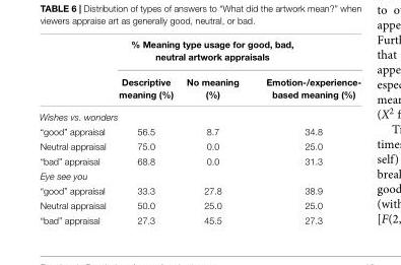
<table><thead><tr><td rowspan="2"></td><td colspan="3">% Meaning type usage for good, bad, neutral artwork appraisals</td></tr><tr><td>Descriptive meaning (%)</td><td>No meaning (%)</td><td>Emotion-/experience- based meaning (%)</td></tr></thead><tbody><tr><td colspan="4">Wishes vs. wonders</td></tr><tr><td>“good” appraisal</td><td>56.5</td><td>8.7</td><td>34.8</td></tr><tr><td>Neutral appraisal</td><td>75.0</td><td>0.0</td><td>25.0</td></tr><tr><td>“bad” appraisal</td><td>68.8</td><td>0.0</td><td>31.3</td></tr><tr><td colspan="4">Eye see you</td></tr><tr><td>“good” appraisal</td><td>33.3</td><td>27.8</td><td>38.9</td></tr><tr><td>Neutral appraisal</td><td>50.0</td><td>25.0</td><td>25.0</td></tr><tr><td>“bad” appraisal</td><td>27.3</td><td>45.5</td><td>27.3</td></tr></tbody></table>